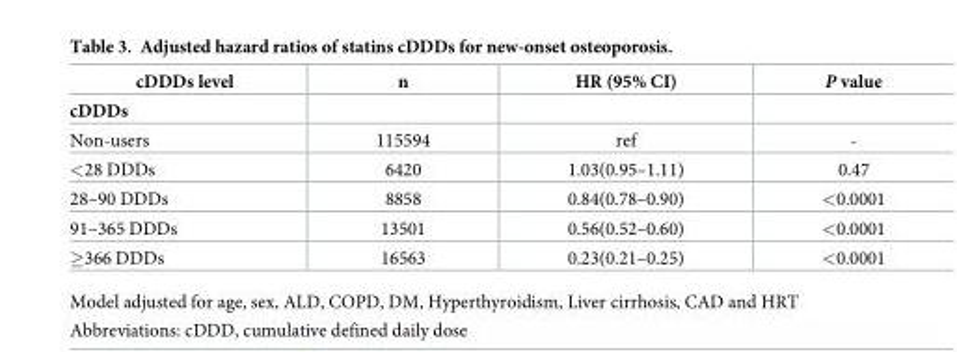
<table><thead><tr><td rowspan="2">cDDDs level cDDDs</td><td rowspan="2">n</td><td rowspan="2">HR (95% CI)</td><td rowspan="2">P value</td></tr><tr></tr></thead><tbody><tr><td>Non-users</td><td>115594</td><td>ref</td><td>-</td></tr><tr><td>&lt;28 DDDs</td><td>6420</td><td>1.03(0.95–1.11)</td><td>0.47</td></tr><tr><td>28–90 DDDs</td><td>8858</td><td>0.84(0.78–0.90)</td><td>&lt;0.0001</td></tr><tr><td>91–365 DDDs</td><td>13501</td><td>0.56(0.52–0.60)</td><td>&lt;0.0001</td></tr><tr><td>≥366 DDDs</td><td>16563</td><td>0.23(0.21–0.25)</td><td>&lt;0.0001</td></tr></tbody></table>